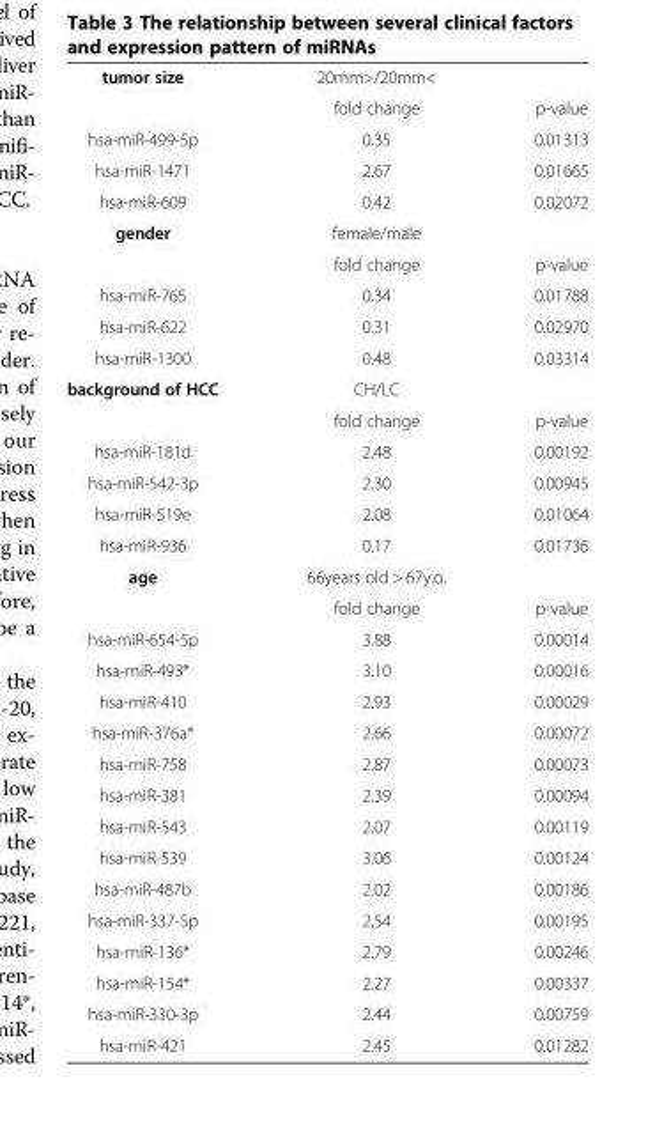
<table><tbody><tr><td rowspan="2">tumor size</td><td>20mm&gt;/20mm&lt;</td><td></td></tr><tr><td>fold change</td><td>p-value</td></tr><tr><td>hsa-miR-499-5p</td><td>0.35</td><td>0.01313</td></tr><tr><td>hsa-miR-1471</td><td>2.67</td><td>0.01665</td></tr><tr><td>hsa-miR-609</td><td>0.42</td><td>0.02072</td></tr><tr><td rowspan="2">gender</td><td>female/male</td><td></td></tr><tr><td>fold change</td><td>p-value</td></tr><tr><td>hsa-miR-765</td><td>0.34</td><td>0.01788</td></tr><tr><td>hsa-miR-622</td><td>0.31</td><td>0.02970</td></tr><tr><td>hsa-miR-1300</td><td>0.48</td><td>0.03314</td></tr><tr><td rowspan="2">background of HCC</td><td>CH/LC</td><td></td></tr><tr><td>fold change</td><td>p-value</td></tr><tr><td>hsa-miR-181d</td><td>2.48</td><td>0.00192</td></tr><tr><td>hsa-miR-542-3p</td><td>2.30</td><td>0.00945</td></tr><tr><td>hsa-miR-519e</td><td>2.08</td><td>0.01064</td></tr><tr><td>hsa-miR-936</td><td>0.17</td><td>0.01736</td></tr><tr><td rowspan="2">age</td><td>66years old &gt; 67y.o.</td><td></td></tr><tr><td>fold change</td><td>p-value</td></tr><tr><td>hsa-miR-654-5p</td><td>3.88</td><td>0.00014</td></tr><tr><td>hsa-miR-493*</td><td>3.10</td><td>0.00016</td></tr><tr><td>hsa-miR-410</td><td>2.93</td><td>0.00029</td></tr><tr><td>hsa-miR-376a*</td><td>2.66</td><td>0.00072</td></tr><tr><td>hsa-miR-758</td><td>2.87</td><td>0.00073</td></tr><tr><td>hsa-miR-381</td><td>2.39</td><td>0.00094</td></tr><tr><td>hsa-miR-543</td><td>2.07</td><td>0.00119</td></tr><tr><td>hsa-miR-539</td><td>3.06</td><td>0.00124</td></tr><tr><td>hsa-miR-487b</td><td>2.02</td><td>0.00186</td></tr><tr><td>hsa-miR-337-5p</td><td>2.54</td><td>0.00195</td></tr><tr><td>hsa-miR-136*</td><td>2.79</td><td>0.00246</td></tr><tr><td>hsa-miR-154*</td><td>2.27</td><td>0.00337</td></tr><tr><td>hsa-miR-330-3p</td><td>2.44</td><td>0.00759</td></tr><tr><td>hsa-miR-421</td><td>2.45</td><td>0.01282</td></tr></tbody></table>